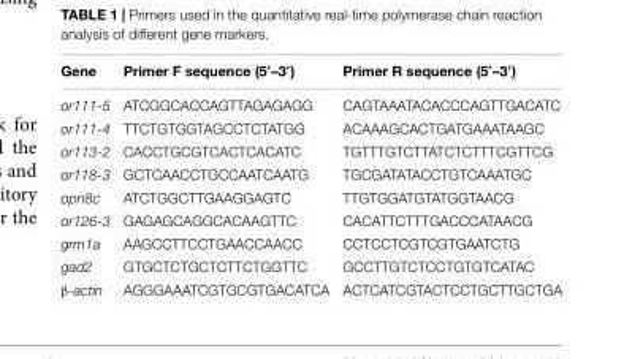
<table><thead><tr><td>Gene</td><td>Primer F sequence (5′–3′)</td><td>Primer R sequence (5′–3′)</td></tr></thead><tbody><tr><td>or111-5</td><td>ATCGGCACCAGTTAGAGAGG</td><td>CAGTAAATACACCCAGTTGACATC</td></tr><tr><td>or111-4</td><td>TTCTGTGGTAGCCTCTATGG</td><td>ACAAAGCACTGATGAAATAAGC</td></tr><tr><td>or113-2</td><td>CACCTGCGTCACTCACATC</td><td>TGTTTGTCTTATCTCTTTCGTTCG</td></tr><tr><td>or118-3</td><td>GCTCAACCTGCCAATCAATG</td><td>TGCGATATACCTGTCAAATGC</td></tr><tr><td>opn8c</td><td>ATCTGGCTTGAAGGAGTC</td><td>TTGTGGATGTATGGTAACG</td></tr><tr><td>or126-3</td><td>GAGAGCAGGCACAAGTTC</td><td>CACATTCTTTGACCCATAACG</td></tr><tr><td>grm1a</td><td>AAGCCTTCCTGAACCAACC</td><td>CCTCCTCGTCGTGAATCTG</td></tr><tr><td>gad2</td><td>GTGCTCTGCTCTTCTGGTTC</td><td>GCCTTGTCTCCTGTGTCATAC</td></tr><tr><td>β-actin</td><td>AGGGAAATCGTGCGTGACATCA</td><td>ACTCATCGTACTCCTGCTTGCTGA</td></tr></tbody></table>